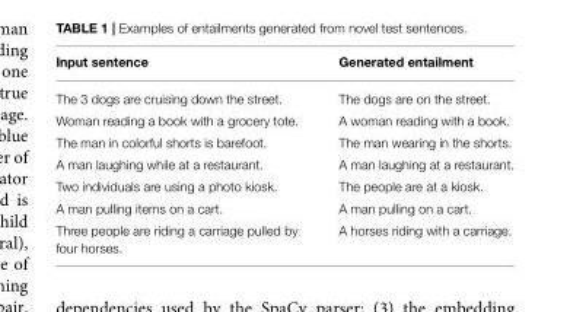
<table><thead><tr><td>Input sentence</td><td>Generated entailment</td></tr></thead><tbody><tr><td>The 3 dogs are cruising down the street.</td><td>The dogs are on the street.</td></tr><tr><td>Woman reading a book with a grocery tote.</td><td>A woman reading with a book.</td></tr><tr><td>The man in colorful shorts is barefoot.</td><td>The man wearing in the shorts.</td></tr><tr><td>A man laughing while at a restaurant.</td><td>A man laughing at a restaurant.</td></tr><tr><td>Two individuals are using a photo kiosk.</td><td>The people are at a kiosk.</td></tr><tr><td>A man pulling items on a cart.</td><td>A man pulling on a cart.</td></tr><tr><td>Three people are riding a carriage pulled by four horses.</td><td>A horses riding with a carriage.</td></tr></tbody></table>